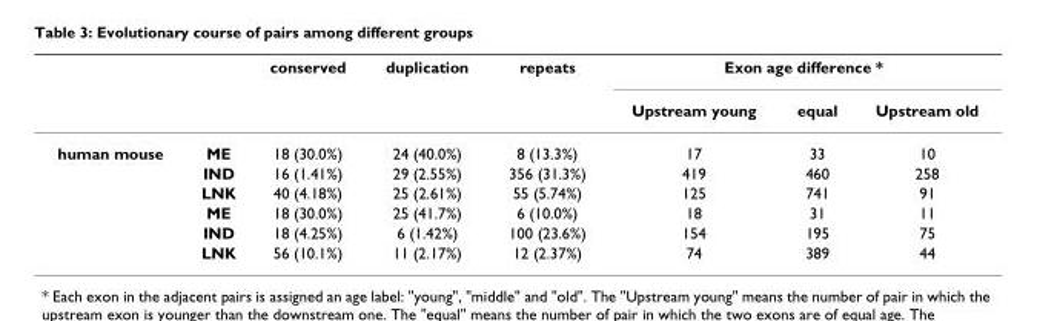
<table><thead><tr><td rowspan="2"></td><td rowspan="2"></td><td rowspan="2">conserved</td><td rowspan="2">duplication</td><td rowspan="2">repeats</td><td colspan="3">Exon age difference *</td></tr><tr><td>Upstream young</td><td>equal</td><td>Upstream old</td></tr></thead><tbody><tr><td rowspan="6">human mouse</td><td>ME</td><td>18 (30.0%)</td><td>24 (40.0%)</td><td>8 (13.3%)</td><td>17</td><td>33</td><td>10</td></tr><tr><td>IND</td><td>16 (1.41%)</td><td>29 (2.55%)</td><td>356 (31.3%)</td><td>419</td><td>460</td><td>258</td></tr><tr><td>LNK</td><td>40 (4.18%)</td><td>25 (2.61%)</td><td>55 (5.74%)</td><td>125</td><td>741</td><td>91</td></tr><tr><td>ME</td><td>18 (30.0%)</td><td>25 (41.7%)</td><td>6 (10.0%)</td><td>18</td><td>31</td><td>11</td></tr><tr><td>IND</td><td>18 (4.25%)</td><td>6 (1.42%)</td><td>100 (23.6%)</td><td>154</td><td>195</td><td>75</td></tr><tr><td>LNK</td><td>56 (10.1%)</td><td>11 (2.17%)</td><td>12 (2.37%)</td><td>74</td><td>389</td><td>44</td></tr></tbody></table>